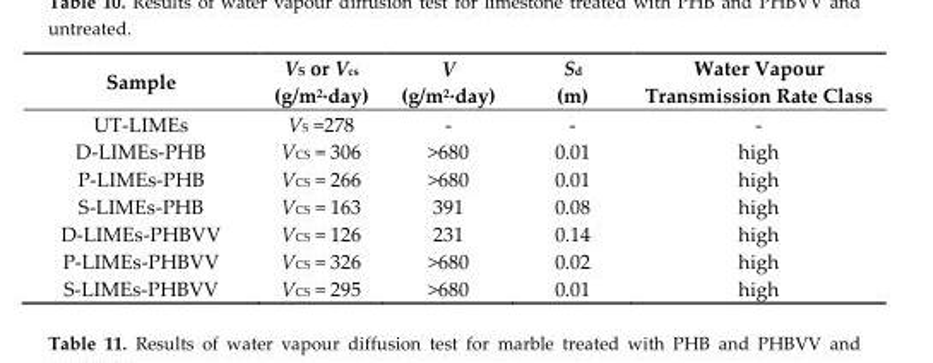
<table><thead><tr><td>Sample</td><td>V<sub>S</sub> or V<sub>cs</sub> (g/m<sup>2</sup>·day)</td><td>V (g/m<sup>2</sup>·day)</td><td>S<sub>d</sub> (m)</td><td>Water Vapour Transmission Rate Class</td></tr></thead><tbody><tr><td>UT-LIMEs</td><td>V<sub>S</sub> =278</td><td>-</td><td>-</td><td>-</td></tr><tr><td>D-LIMEs-PHB</td><td>V<sub>CS</sub> = 306</td><td>&gt;680</td><td>0.01</td><td>high</td></tr><tr><td>P-LIMEs-PHB</td><td>V<sub>CS</sub> = 266</td><td>&gt;680</td><td>0.01</td><td>high</td></tr><tr><td>S-LIMEs-PHB</td><td>V<sub>CS</sub> = 163</td><td>391</td><td>0.08</td><td>high</td></tr><tr><td>D-LIMEs-PHBVV</td><td>V<sub>CS</sub> = 126</td><td>231</td><td>0.14</td><td>high</td></tr><tr><td>P-LIMEs-PHBVV</td><td>V<sub>CS</sub> = 326</td><td>&gt;680</td><td>0.02</td><td>high</td></tr><tr><td>S-LIMEs-PHBVV</td><td>V<sub>CS</sub> = 295</td><td>&gt;680</td><td>0.01</td><td>high</td></tr></tbody></table>